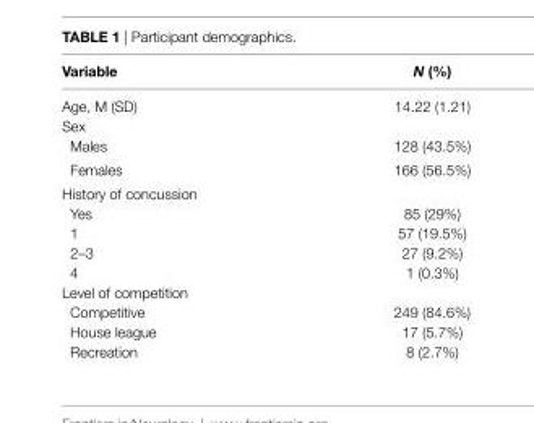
<table><thead><tr><td>Variable</td><td>N (%)</td></tr></thead><tbody><tr><td>Age, M (SD)</td><td>14.22 (1.21)</td></tr><tr><td colspan="2">Sex</td></tr><tr><td>Males</td><td>128 (43.5%)</td></tr><tr><td>Females</td><td>166 (56.5%)</td></tr><tr><td colspan="2">History of concussion</td></tr><tr><td>Yes</td><td>85 (29%)</td></tr><tr><td>1</td><td>57 (19.5%)</td></tr><tr><td>2–3</td><td>27 (9.2%)</td></tr><tr><td>4</td><td>1 (0.3%)</td></tr><tr><td colspan="2">Level of competition</td></tr><tr><td>Competitive</td><td>249 (84.6%)</td></tr><tr><td>House league</td><td>17 (5.7%)</td></tr><tr><td>Recreation</td><td>8 (2.7%)</td></tr></tbody></table>